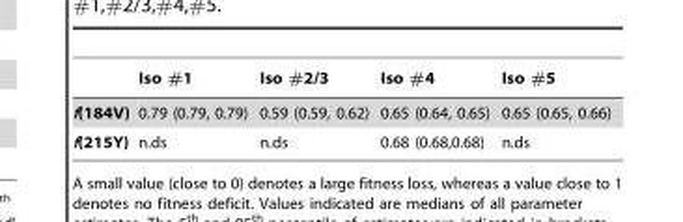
<table><thead><tr><td></td><td>Iso #1</td><td>Iso #2/3</td><td>Iso #4</td><td>Iso #5</td></tr></thead><tbody><tr><td>f(184V)</td><td>0.79 (0.79, 0.79)</td><td>0.59 (0.59, 0.62)</td><td>0.65 (0.64, 0.65)</td><td>0.65 (0.65, 0.66)</td></tr><tr><td>f(215Y)</td><td>n.ds</td><td>n.ds</td><td>0.68 (0.68,0.68)</td><td>n.ds</td></tr></tbody></table>